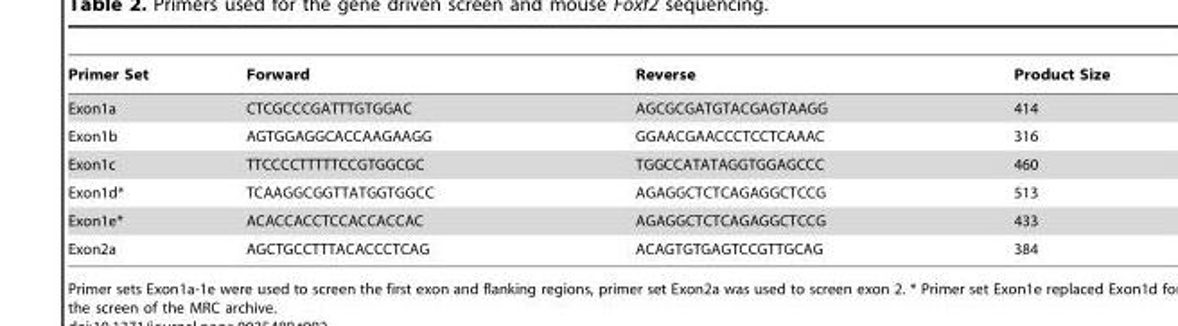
<table><thead><tr><td>Primer Set</td><td>Forward</td><td>Reverse</td><td>Product Size</td></tr></thead><tbody><tr><td>Exon1a</td><td>CTCGCCCGATTTGTGGAC</td><td>AGCGCGATGTACGAGTAAGG</td><td>414</td></tr><tr><td>Exon1b</td><td>AGTGGAGGCACCAAGAAGG</td><td>GGAACGAACCCTCCTCAAAC</td><td>316</td></tr><tr><td>Exon1c</td><td>TTCCCCTTTTTCCGTGGCGC</td><td>TGGCCATATAGGTGGAGCCC</td><td>460</td></tr><tr><td>Exon1d*</td><td>TCAAGGCGGTTATGGTGGCC</td><td>AGAGGCTCTCAGAGGCTCCG</td><td>513</td></tr><tr><td>Exon1e*</td><td>ACACCACCTCCACCACCAC</td><td>AGAGGCTCTCAGAGGCTCCG</td><td>433</td></tr><tr><td>Exon2a</td><td>AGCTGCCTTTACACCCTCAG</td><td>ACAGTGTGAGTCCGTTGCAG</td><td>384</td></tr></tbody></table>